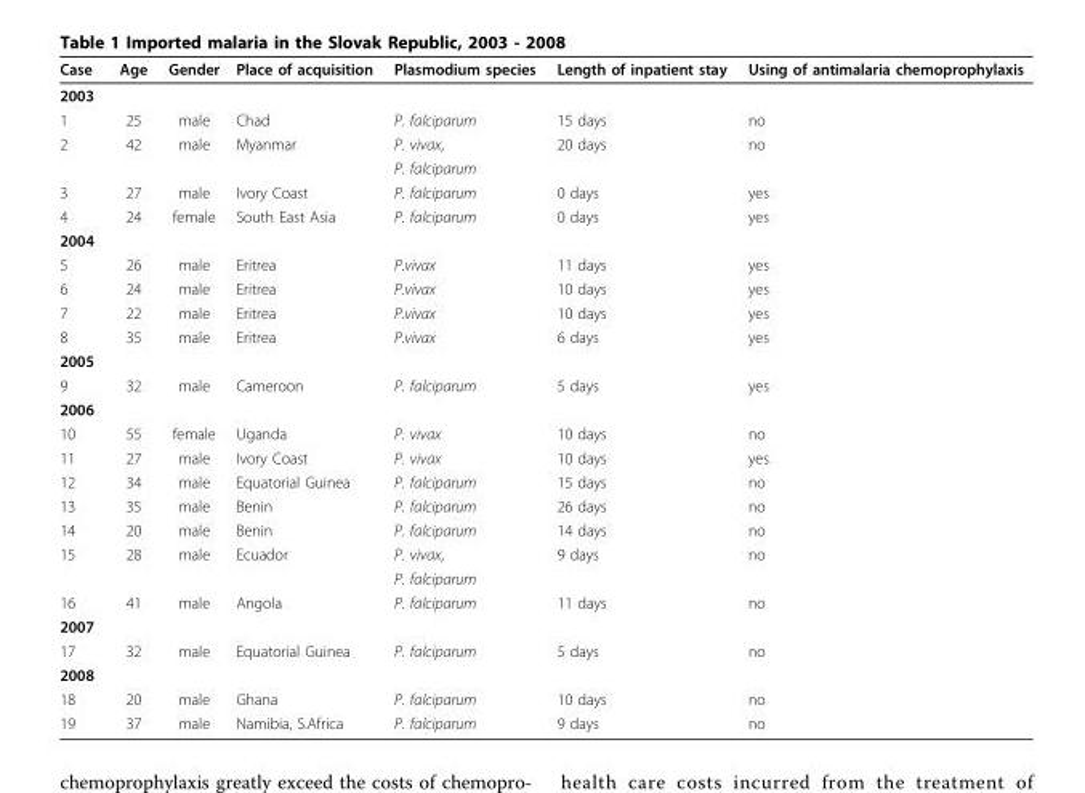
<table><thead><tr><td>Case</td><td>Age</td><td>Gender</td><td>Place of acquisition</td><td>Plasmodium species</td><td>Length of inpatient stay</td><td>Using of antimalaria chemoprophylaxis</td></tr></thead><tbody><tr><td colspan="7">2003</td></tr><tr><td>1</td><td>25</td><td>male</td><td>Chad</td><td>P. falciparum</td><td>15 days</td><td>no</td></tr><tr><td rowspan="2">2</td><td>42</td><td>male</td><td>Myanmar</td><td>P. vivax,</td><td>20 days</td><td>no</td></tr><tr><td></td><td></td><td></td><td>P. falciparum</td><td></td><td></td></tr><tr><td>3</td><td>27</td><td>male</td><td>Ivory Coast</td><td>P. falciparum</td><td>0 days</td><td>yes</td></tr><tr><td>4</td><td>24</td><td>female</td><td>South East Asia</td><td>P. falciparum</td><td>0 days</td><td>yes</td></tr><tr><td colspan="7">2004</td></tr><tr><td>5</td><td>26</td><td>male</td><td>Eritrea</td><td>P.vivax</td><td>11 days</td><td>yes</td></tr><tr><td>6</td><td>24</td><td>male</td><td>Eritrea</td><td>P.vivax</td><td>10 days</td><td>yes</td></tr><tr><td>7</td><td>22</td><td>male</td><td>Eritrea</td><td>P.vivax</td><td>10 days</td><td>yes</td></tr><tr><td>8</td><td>35</td><td>male</td><td>Eritrea</td><td>P.vivax</td><td>6 days</td><td>yes</td></tr><tr><td colspan="7">2005</td></tr><tr><td>9</td><td>32</td><td>male</td><td>Cameroon</td><td>P. falciparum</td><td>5 days</td><td>yes</td></tr><tr><td colspan="7">2006</td></tr><tr><td>10</td><td>55</td><td>female</td><td>Uganda</td><td>P. vivax</td><td>10 days</td><td>no</td></tr><tr><td>11</td><td>27</td><td>male</td><td>Ivory Coast</td><td>P. vivax</td><td>10 days</td><td>yes</td></tr><tr><td>12</td><td>34</td><td>male</td><td>Equatorial Guinea</td><td>P. falciparum</td><td>15 days</td><td>no</td></tr><tr><td>13</td><td>35</td><td>male</td><td>Benin</td><td>P. falciparum</td><td>26 days</td><td>no</td></tr><tr><td>14</td><td>20</td><td>male</td><td>Benin</td><td>P. falciparum</td><td>14 days</td><td>no</td></tr><tr><td rowspan="2">15</td><td>28</td><td>male</td><td>Ecuador</td><td>P. vivax,</td><td>9 days</td><td>no</td></tr><tr><td></td><td></td><td></td><td>P. falciparum</td><td></td><td></td></tr><tr><td>16</td><td>41</td><td>male</td><td>Angola</td><td>P. falciparum</td><td>11 days</td><td>no</td></tr><tr><td colspan="7">2007</td></tr><tr><td>17</td><td>32</td><td>male</td><td>Equatorial Guinea</td><td>P. falciparum</td><td>5 days</td><td>no</td></tr><tr><td colspan="7">2008</td></tr><tr><td>18</td><td>20</td><td>male</td><td>Ghana</td><td>P. falciparum</td><td>10 days</td><td>no</td></tr><tr><td>19</td><td>37</td><td>male</td><td>Namibia, S.Africa</td><td>P. falciparum</td><td>9 days</td><td>no</td></tr></tbody></table>